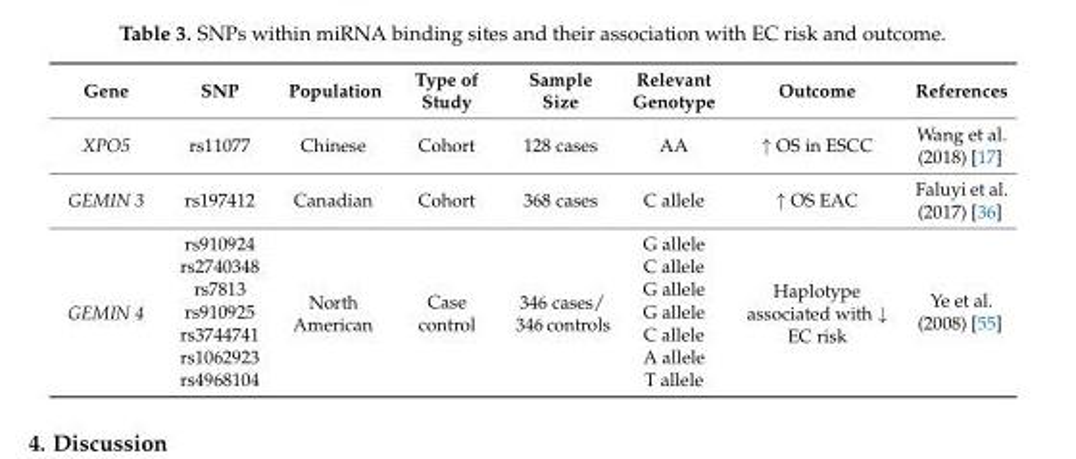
<table><thead><tr><td>Gene</td><td>SNP</td><td>Population</td><td>Type of Study</td><td>Sample Size</td><td>Relevant Genotype</td><td>Outcome</td><td>References</td></tr></thead><tbody><tr><td>XPO5</td><td>rs11077</td><td>Chinese</td><td>Cohort</td><td>128 cases</td><td>AA</td><td>↑ OS in ESCC</td><td>Wang et al. (2018) [17]</td></tr><tr><td>GEMIN 3</td><td>rs197412</td><td>Canadian</td><td>Cohort</td><td>368 cases</td><td>C allele</td><td>↑ OS EAC</td><td>Faluyi et al. (2017) [36]</td></tr><tr><td rowspan="7">GEMIN 4</td><td>rs910924</td><td rowspan="7">North American</td><td rowspan="7">Case control</td><td rowspan="7">346 cases/ 346 controls</td><td>G allele</td><td rowspan="7">Haplotype associated with ↓ EC risk</td><td rowspan="7">Ye et al. (2008) [55]</td></tr><tr><td>rs2740348</td><td>C allele</td></tr><tr><td>rs7813</td><td>G allele</td></tr><tr><td>rs910925</td><td>G allele</td></tr><tr><td>rs3744741</td><td>C allele</td></tr><tr><td>rs1062923</td><td>A allele</td></tr><tr><td>rs4968104</td><td>T allele</td></tr></tbody></table>